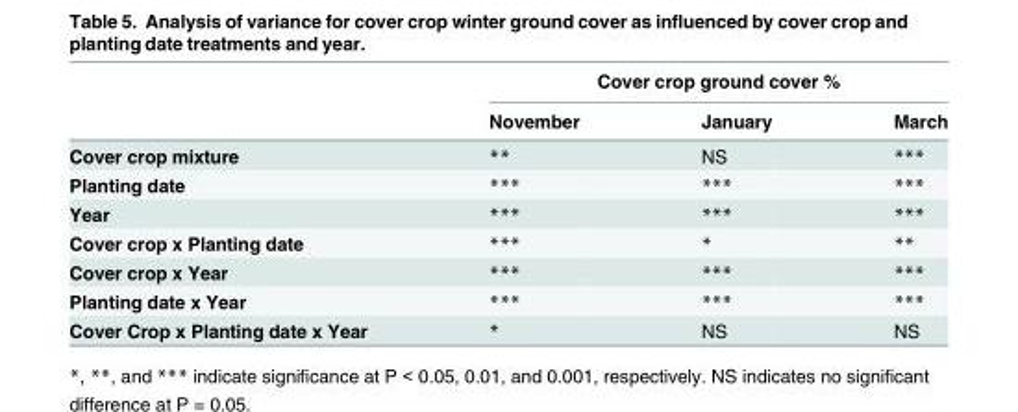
<table><thead><tr><td rowspan="2"></td><td colspan="3">Cover crop ground cover %</td></tr><tr><td>November</td><td>January</td><td>March</td></tr></thead><tbody><tr><td>Cover crop mixture</td><td>**</td><td>NS</td><td>***</td></tr><tr><td>Planting date</td><td>***</td><td>***</td><td>***</td></tr><tr><td>Year</td><td>***</td><td>***</td><td>***</td></tr><tr><td>Cover crop x Planting date</td><td>***</td><td>*</td><td>**</td></tr><tr><td>Cover crop x Year</td><td>***</td><td>***</td><td>***</td></tr><tr><td>Planting date x Year</td><td>***</td><td>***</td><td>***</td></tr><tr><td>Cover Crop x Planting date x Year</td><td>*</td><td>NS</td><td>NS</td></tr></tbody></table>